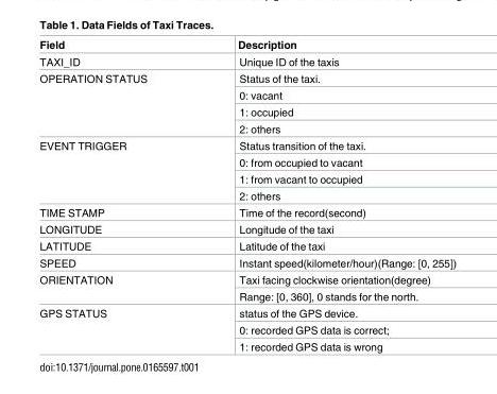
<table><thead><tr><td>Field</td><td>Description</td></tr></thead><tbody><tr><td>TAXI_ID</td><td>Unique ID of the taxis</td></tr><tr><td rowspan="4">OPERATION STATUS</td><td>Status of the taxi.</td></tr><tr><td>0: vacant</td></tr><tr><td>1: occupied</td></tr><tr><td>2: others</td></tr><tr><td rowspan="4">EVENT TRIGGER</td><td>Status transition of the taxi.</td></tr><tr><td>0: from occupied to vacant</td></tr><tr><td>1: from vacant to occupied</td></tr><tr><td>2: others</td></tr><tr><td>TIME STAMP</td><td>Time of the record(second)</td></tr><tr><td>LONGITUDE</td><td>Longitude of the taxi</td></tr><tr><td>LATITUDE</td><td>Latitude of the taxi</td></tr><tr><td>SPEED</td><td>Instant speed(kilometer/hour)(Range: [0, 255])</td></tr><tr><td rowspan="2">ORIENTATION</td><td>Taxi facing clockwise orientation(degree)</td></tr><tr><td>Range: [0, 360], 0 stands for the north.</td></tr><tr><td rowspan="3">GPS STATUS</td><td>status of the GPS device.</td></tr><tr><td>0: recorded GPS data is correct;</td></tr><tr><td>1: recorded GPS data is wrong</td></tr></tbody></table>